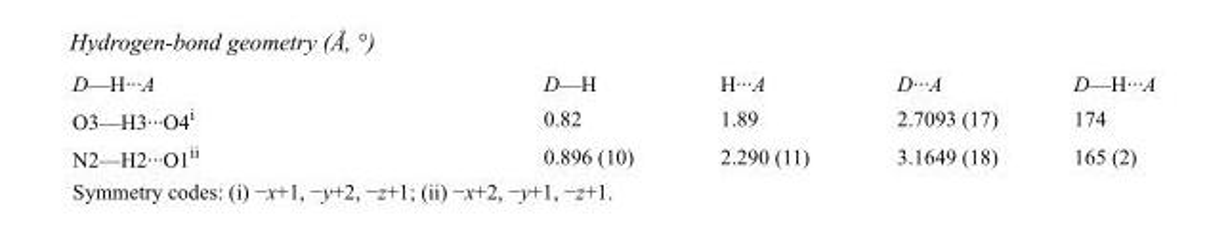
<table><tbody><tr><td>D—H···A</td><td>D—H</td><td>H···A</td><td>D···A</td><td>D—H···A</td></tr><tr><td>O3—H3···O4<sup>i</sup></td><td>0.82</td><td>1.89</td><td>2.7093 (17)</td><td>174</td></tr><tr><td>N2—H2···O1<sup>ii</sup></td><td>0.896 (10)</td><td>2.290 (11)</td><td>3.1649 (18)</td><td>165 (2)</td></tr></tbody></table>